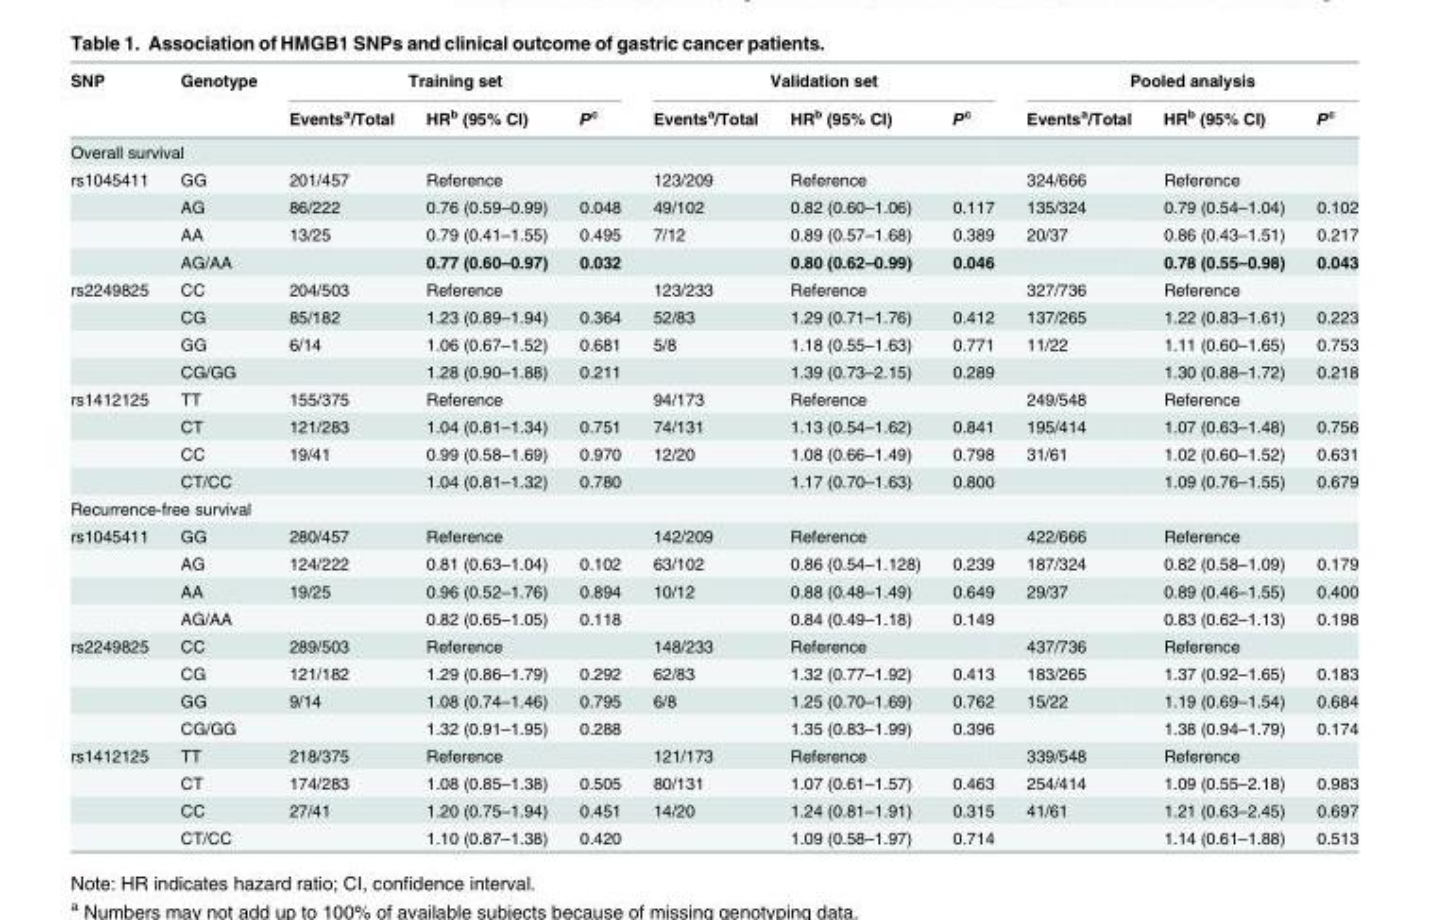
<table><thead><tr><td rowspan="2">SNP</td><td rowspan="2">Genotype</td><td colspan="3">Training set</td><td colspan="3">Validation set</td><td colspan="3">Pooled analysis</td></tr><tr><td>Events<sup>a</sup>/Total</td><td>HR<sup>b</sup> (95% CI)</td><td>P<sup>c</sup></td><td>Events<sup>a</sup>/Total</td><td>HR<sup>b</sup> (95% CI)</td><td>P<sup>c</sup></td><td>Events<sup>a</sup>/Total</td><td>HR<sup>b</sup> (95% CI)</td><td>P<sup>c</sup></td></tr></thead><tbody><tr><td colspan="11">Overall survival</td></tr><tr><td rowspan="4">rs1045411</td><td>GG</td><td>201/457</td><td>Reference</td><td></td><td>123/209</td><td>Reference</td><td></td><td>324/666</td><td>Reference</td><td></td></tr><tr><td>AG</td><td>86/222</td><td>0.76 (0.59–0.99)</td><td>0.048</td><td>49/102</td><td>0.82 (0.60–1.06)</td><td>0.117</td><td>135/324</td><td>0.79 (0.54–1.04)</td><td>0.102</td></tr><tr><td>AA</td><td>13/25</td><td>0.79 (0.41–1.55)</td><td>0.495</td><td>7/12</td><td>0.89 (0.57–1.68)</td><td>0.389</td><td>20/37</td><td>0.86 (0.43–1.51)</td><td>0.217</td></tr><tr><td>AG/AA</td><td></td><td>0.77 (0.60–0.97)</td><td>0.032</td><td></td><td>0.80 (0.62–0.99)</td><td>0.046</td><td></td><td>0.78 (0.55–0.98)</td><td>0.043</td></tr><tr><td rowspan="4">rs2249825</td><td>CC</td><td>204/503</td><td>Reference</td><td></td><td>123/233</td><td>Reference</td><td></td><td>327/736</td><td>Reference</td><td></td></tr><tr><td>CG</td><td>85/182</td><td>1.23 (0.89–1.94)</td><td>0.364</td><td>52/83</td><td>1.29 (0.71–1.76)</td><td>0.412</td><td>137/265</td><td>1.22 (0.83–1.61)</td><td>0.223</td></tr><tr><td>GG</td><td>6/14</td><td>1.06 (0.67–1.52)</td><td>0.681</td><td>5/8</td><td>1.18 (0.55–1.63)</td><td>0.771</td><td>11/22</td><td>1.11 (0.60–1.65)</td><td>0.753</td></tr><tr><td>CG/GG</td><td></td><td>1.28 (0.90–1.88)</td><td>0.211</td><td></td><td>1.39 (0.73–2.15)</td><td>0.289</td><td></td><td>1.30 (0.88–1.72)</td><td>0.218</td></tr><tr><td rowspan="4">rs1412125</td><td>TT</td><td>155/375</td><td>Reference</td><td></td><td>94/173</td><td>Reference</td><td></td><td>249/548</td><td>Reference</td><td></td></tr><tr><td>CT</td><td>121/283</td><td>1.04 (0.81–1.34)</td><td>0.751</td><td>74/131</td><td>1.13 (0.54–1.62)</td><td>0.841</td><td>195/414</td><td>1.07 (0.63–1.48)</td><td>0.756</td></tr><tr><td>CC</td><td>19/41</td><td>0.99 (0.58–1.69)</td><td>0.970</td><td>12/20</td><td>1.08 (0.66–1.49)</td><td>0.798</td><td>31/61</td><td>1.02 (0.60–1.52)</td><td>0.631</td></tr><tr><td>CT/CC</td><td></td><td>1.04 (0.81–1.32)</td><td>0.780</td><td></td><td>1.17 (0.70–1.63)</td><td>0.800</td><td></td><td>1.09 (0.76–1.55)</td><td>0.679</td></tr><tr><td colspan="11">Recurrence-free survival</td></tr><tr><td rowspan="4">rs1045411</td><td>GG</td><td>280/457</td><td>Reference</td><td></td><td>142/209</td><td>Reference</td><td></td><td>422/666</td><td>Reference</td><td></td></tr><tr><td>AG</td><td>124/222</td><td>0.81 (0.63–1.04)</td><td>0.102</td><td>63/102</td><td>0.86 (0.54–1.128)</td><td>0.239</td><td>187/324</td><td>0.82 (0.58–1.09)</td><td>0.179</td></tr><tr><td>AA</td><td>19/25</td><td>0.96 (0.52–1.76)</td><td>0.894</td><td>10/12</td><td>0.88 (0.48–1.49)</td><td>0.649</td><td>29/37</td><td>0.89 (0.46–1.55)</td><td>0.400</td></tr><tr><td>AG/AA</td><td></td><td>0.82 (0.65–1.05)</td><td>0.118</td><td></td><td>0.84 (0.49–1.18)</td><td>0.149</td><td></td><td>0.83 (0.62–1.13)</td><td>0.198</td></tr><tr><td rowspan="4">rs2249825</td><td>CC</td><td>289/503</td><td>Reference</td><td></td><td>148/233</td><td>Reference</td><td></td><td>437/736</td><td>Reference</td><td></td></tr><tr><td>CG</td><td>121/182</td><td>1.29 (0.86–1.79)</td><td>0.292</td><td>62/83</td><td>1.32 (0.77–1.92)</td><td>0.413</td><td>183/265</td><td>1.37 (0.92–1.65)</td><td>0.183</td></tr><tr><td>GG</td><td>9/14</td><td>1.08 (0.74–1.46)</td><td>0.795</td><td>6/8</td><td>1.25 (0.70–1.69)</td><td>0.762</td><td>15/22</td><td>1.19 (0.69–1.54)</td><td>0.684</td></tr><tr><td>CG/GG</td><td></td><td>1.32 (0.91–1.95)</td><td>0.288</td><td></td><td>1.35 (0.83–1.99)</td><td>0.396</td><td></td><td>1.38 (0.94–1.79)</td><td>0.174</td></tr><tr><td rowspan="4">rs1412125</td><td>TT</td><td>218/375</td><td>Reference</td><td></td><td>121/173</td><td>Reference</td><td></td><td>339/548</td><td>Reference</td><td></td></tr><tr><td>CT</td><td>174/283</td><td>1.08 (0.85–1.38)</td><td>0.505</td><td>80/131</td><td>1.07 (0.61–1.57)</td><td>0.463</td><td>254/414</td><td>1.09 (0.55–2.18)</td><td>0.983</td></tr><tr><td>CC</td><td>27/41</td><td>1.20 (0.75–1.94)</td><td>0.451</td><td>14/20</td><td>1.24 (0.81–1.91)</td><td>0.315</td><td>41/61</td><td>1.21 (0.63–2.45)</td><td>0.697</td></tr><tr><td>CT/CC</td><td></td><td>1.10 (0.87–1.38)</td><td>0.420</td><td></td><td>1.09 (0.58–1.97)</td><td>0.714</td><td></td><td>1.14 (0.61–1.88)</td><td>0.513</td></tr></tbody></table>